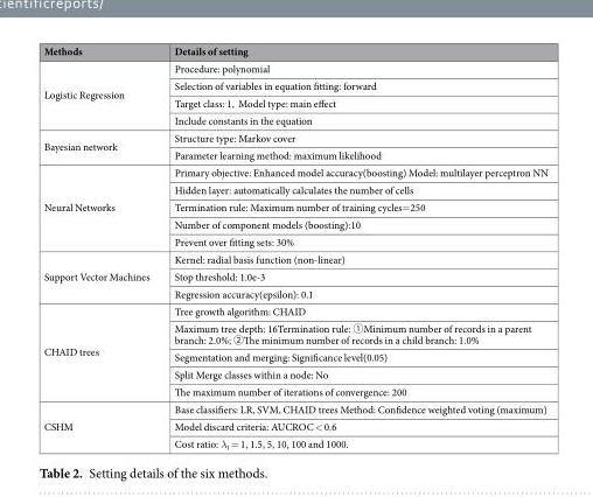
<table><thead><tr><td>Methods</td><td>Details of setting</td></tr></thead><tbody><tr><td rowspan="4">Logistic Regression</td><td>Procedure: polynomial</td></tr><tr><td>Selection of variables in equation fitting: forward</td></tr><tr><td>Target class: 1, Model type: main effect</td></tr><tr><td>Include constants in the equation</td></tr><tr><td rowspan="2">Bayesian network</td><td>Structure type: Markov cover</td></tr><tr><td>Parameter learning method: maximum likelihood</td></tr><tr><td rowspan="5">Neural Networks</td><td>Primary objective: Enhanced model accuracy(boosting) Model: multilayer perceptron NN</td></tr><tr><td>Hidden layer: automatically calculates the number of cells</td></tr><tr><td>Termination rule: Maximum number of training cycles=250</td></tr><tr><td>Number of component models (boosting):10</td></tr><tr><td>Prevent over fitting sets: 30%</td></tr><tr><td rowspan="3">Support Vector Machines</td><td>Kernel: radial basis function (non-linear)</td></tr><tr><td>Stop threshold: 1.0e-3</td></tr><tr><td>Regression accuracy(epsilon): 0.1</td></tr><tr><td rowspan="5">CHAID trees</td><td>Tree growth algorithm: CHAID</td></tr><tr><td>Maximum tree depth: 16Termination rule: ①Minimum number of records in a parent branch: 2.0%; ②The minimum number of records in a child branch: 1.0%</td></tr><tr><td>Segmentation and merging: Significance level(0.05)</td></tr><tr><td>Split Merge classes within a node: No</td></tr><tr><td>The maximum number of iterations of convergence: 200</td></tr><tr><td rowspan="3">CSHM</td><td>Base classifiers: LR, SVM, CHAID trees Method: Confidence weighted voting (maximum)</td></tr><tr><td>Model discard criteria: AUCROC &lt; 0.6</td></tr><tr><td>Cost ratio: λ<sub>1</sub> = 1, 1.5, 5, 10, 100 and 1000.</td></tr></tbody></table>